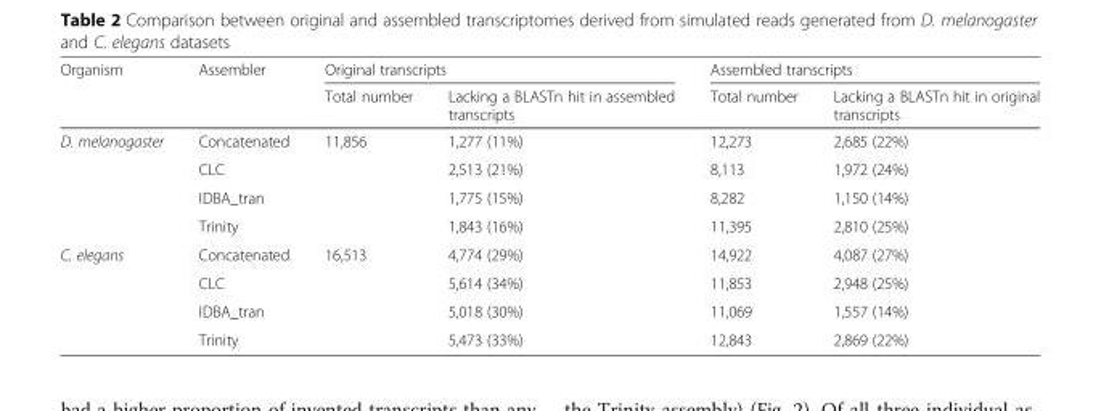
<table><thead><tr><td rowspan="2">Organism</td><td rowspan="2">Assembler</td><td colspan="2">Original transcripts</td><td colspan="2">Assembled transcripts</td></tr><tr><td>Total number</td><td>Lacking a BLASTn hit in assembled transcripts</td><td>Total number</td><td>Lacking a BLASTn hit in original transcripts</td></tr></thead><tbody><tr><td rowspan="4">D. melanogaster</td><td>Concatenated</td><td rowspan="4">11,856</td><td>1,277 (11%)</td><td>12,273</td><td>2,685 (22%)</td></tr><tr><td>CLC</td><td>2,513 (21%)</td><td>8,113</td><td>1,972 (24%)</td></tr><tr><td>IDBA_tran</td><td>1,775 (15%)</td><td>8,282</td><td>1,150 (14%)</td></tr><tr><td>Trinity</td><td>1,843 (16%)</td><td>11,395</td><td>2,810 (25%)</td></tr><tr><td rowspan="4">C. elegans</td><td>Concatenated</td><td rowspan="4">16,513</td><td>4,774 (29%)</td><td>14,922</td><td>4,087 (27%)</td></tr><tr><td>CLC</td><td>5,614 (34%)</td><td>11,853</td><td>2,948 (25%)</td></tr><tr><td>IDBA_tran</td><td>5,018 (30%)</td><td>11,069</td><td>1,557 (14%)</td></tr><tr><td>Trinity</td><td>5,473 (33%)</td><td>12,843</td><td>2,869 (22%)</td></tr></tbody></table>